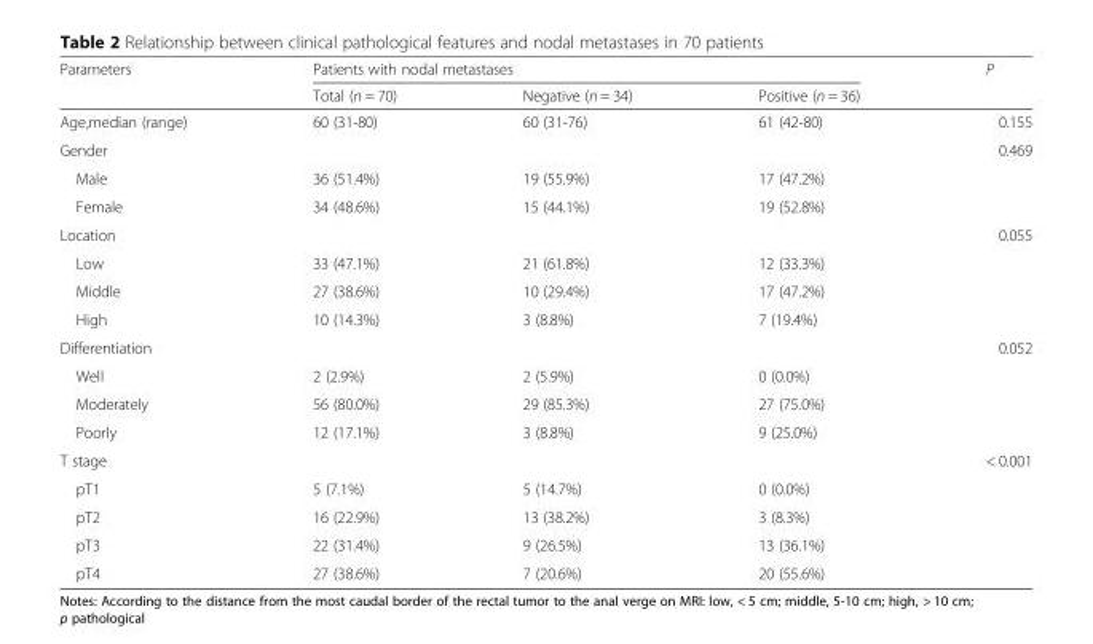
<table><thead><tr><td rowspan="2">Parameters</td><td colspan="3">Patients with nodal metastases</td><td rowspan="2">P</td></tr><tr><td>Total (n = 70)</td><td>Negative (n = 34)</td><td>Positive (n = 36)</td></tr></thead><tbody><tr><td>Age,median (range)</td><td>60 (31-80)</td><td>60 (31-76)</td><td>61 (42-80)</td><td>0.155</td></tr><tr><td colspan="4">Gender</td><td>0.469</td></tr><tr><td>Male</td><td>36 (51.4%)</td><td>19 (55.9%)</td><td>17 (47.2%)</td><td></td></tr><tr><td>Female</td><td>34 (48.6%)</td><td>15 (44.1%)</td><td>19 (52.8%)</td><td></td></tr><tr><td colspan="4">Location</td><td>0.055</td></tr><tr><td>Low</td><td>33 (47.1%)</td><td>21 (61.8%)</td><td>12 (33.3%)</td><td></td></tr><tr><td>Middle</td><td>27 (38.6%)</td><td>10 (29.4%)</td><td>17 (47.2%)</td><td></td></tr><tr><td>High</td><td>10 (14.3%)</td><td>3 (8.8%)</td><td>7 (19.4%)</td><td></td></tr><tr><td colspan="4">Differentiation</td><td>0.052</td></tr><tr><td>Well</td><td>2 (2.9%)</td><td>2 (5.9%)</td><td>0 (0.0%)</td><td></td></tr><tr><td>Moderately</td><td>56 (80.0%)</td><td>29 (85.3%)</td><td>27 (75.0%)</td><td></td></tr><tr><td>Poorly</td><td>12 (17.1%)</td><td>3 (8.8%)</td><td>9 (25.0%)</td><td></td></tr><tr><td colspan="4">T stage</td><td>&lt; 0.001</td></tr><tr><td>pT1</td><td>5 (7.1%)</td><td>5 (14.7%)</td><td>0 (0.0%)</td><td></td></tr><tr><td>pT2</td><td>16 (22.9%)</td><td>13 (38.2%)</td><td>3 (8.3%)</td><td></td></tr><tr><td>pT3</td><td>22 (31.4%)</td><td>9 (26.5%)</td><td>13 (36.1%)</td><td></td></tr><tr><td>pT4</td><td>27 (38.6%)</td><td>7 (20.6%)</td><td>20 (55.6%)</td><td></td></tr></tbody></table>